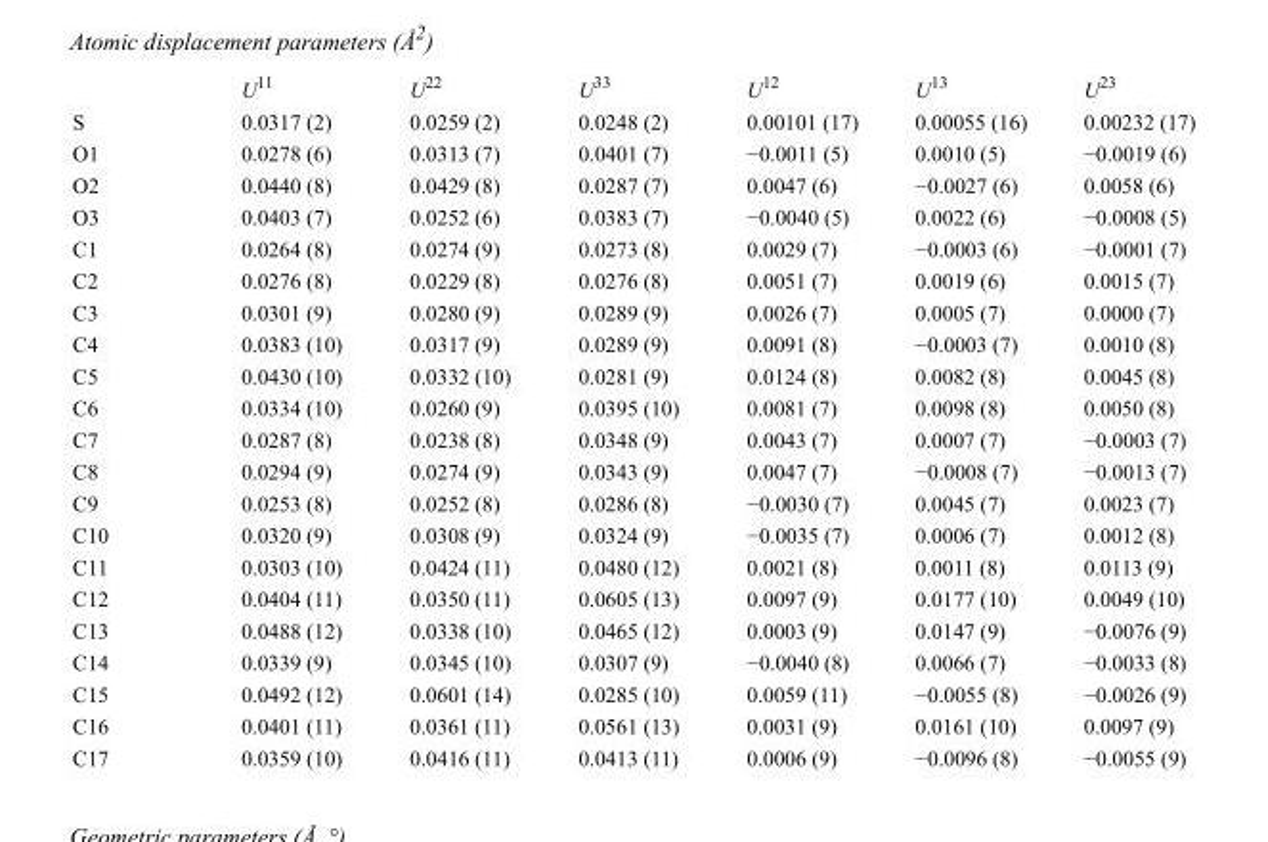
<table><thead><tr><td></td><td>U<sup>11</sup></td><td>U<sup>22</sup></td><td>U<sup>33</sup></td><td>U<sup>12</sup></td><td>U<sup>13</sup></td><td>U<sup>23</sup></td></tr></thead><tbody><tr><td>S</td><td>0.0317 (2)</td><td>0.0259 (2)</td><td>0.0248 (2)</td><td>0.00101 (17)</td><td>0.00055 (16)</td><td>0.00232 (17)</td></tr><tr><td>O1</td><td>0.0278 (6)</td><td>0.0313 (7)</td><td>0.0401 (7)</td><td>−0.0011 (5)</td><td>0.0010 (5)</td><td>−0.0019 (6)</td></tr><tr><td>O2</td><td>0.0440 (8)</td><td>0.0429 (8)</td><td>0.0287 (7)</td><td>0.0047 (6)</td><td>−0.0027 (6)</td><td>0.0058 (6)</td></tr><tr><td>O3</td><td>0.0403 (7)</td><td>0.0252 (6)</td><td>0.0383 (7)</td><td>−0.0040 (5)</td><td>0.0022 (6)</td><td>−0.0008 (5)</td></tr><tr><td>C1</td><td>0.0264 (8)</td><td>0.0274 (9)</td><td>0.0273 (8)</td><td>0.0029 (7)</td><td>−0.0003 (6)</td><td>−0.0001 (7)</td></tr><tr><td>C2</td><td>0.0276 (8)</td><td>0.0229 (8)</td><td>0.0276 (8)</td><td>0.0051 (7)</td><td>0.0019 (6)</td><td>0.0015 (7)</td></tr><tr><td>C3</td><td>0.0301 (9)</td><td>0.0280 (9)</td><td>0.0289 (9)</td><td>0.0026 (7)</td><td>0.0005 (7)</td><td>0.0000 (7)</td></tr><tr><td>C4</td><td>0.0383 (10)</td><td>0.0317 (9)</td><td>0.0289 (9)</td><td>0.0091 (8)</td><td>−0.0003 (7)</td><td>0.0010 (8)</td></tr><tr><td>C5</td><td>0.0430 (10)</td><td>0.0332 (10)</td><td>0.0281 (9)</td><td>0.0124 (8)</td><td>0.0082 (8)</td><td>0.0045 (8)</td></tr><tr><td>C6</td><td>0.0334 (10)</td><td>0.0260 (9)</td><td>0.0395 (10)</td><td>0.0081 (7)</td><td>0.0098 (8)</td><td>0.0050 (8)</td></tr><tr><td>C7</td><td>0.0287 (8)</td><td>0.0238 (8)</td><td>0.0348 (9)</td><td>0.0043 (7)</td><td>0.0007 (7)</td><td>−0.0003 (7)</td></tr><tr><td>C8</td><td>0.0294 (9)</td><td>0.0274 (9)</td><td>0.0343 (9)</td><td>0.0047 (7)</td><td>−0.0008 (7)</td><td>−0.0013 (7)</td></tr><tr><td>C9</td><td>0.0253 (8)</td><td>0.0252 (8)</td><td>0.0286 (8)</td><td>−0.0030 (7)</td><td>0.0045 (7)</td><td>0.0023 (7)</td></tr><tr><td>C10</td><td>0.0320 (9)</td><td>0.0308 (9)</td><td>0.0324 (9)</td><td>−0.0035 (7)</td><td>0.0006 (7)</td><td>0.0012 (8)</td></tr><tr><td>C11</td><td>0.0303 (10)</td><td>0.0424 (11)</td><td>0.0480 (12)</td><td>0.0021 (8)</td><td>0.0011 (8)</td><td>0.0113 (9)</td></tr><tr><td>C12</td><td>0.0404 (11)</td><td>0.0350 (11)</td><td>0.0605 (13)</td><td>0.0097 (9)</td><td>0.0177 (10)</td><td>0.0049 (10)</td></tr><tr><td>C13</td><td>0.0488 (12)</td><td>0.0338 (10)</td><td>0.0465 (12)</td><td>0.0003 (9)</td><td>0.0147 (9)</td><td>−0.0076 (9)</td></tr><tr><td>C14</td><td>0.0339 (9)</td><td>0.0345 (10)</td><td>0.0307 (9)</td><td>−0.0040 (8)</td><td>0.0066 (7)</td><td>−0.0033 (8)</td></tr><tr><td>C15</td><td>0.0492 (12)</td><td>0.0601 (14)</td><td>0.0285 (10)</td><td>0.0059 (11)</td><td>−0.0055 (8)</td><td>−0.0026 (9)</td></tr><tr><td>C16</td><td>0.0401 (11)</td><td>0.0361 (11)</td><td>0.0561 (13)</td><td>0.0031 (9)</td><td>0.0161 (10)</td><td>0.0097 (9)</td></tr><tr><td>C17</td><td>0.0359 (10)</td><td>0.0416 (11)</td><td>0.0413 (11)</td><td>0.0006 (9)</td><td>−0.0096 (8)</td><td>−0.0055 (9)</td></tr></tbody></table>